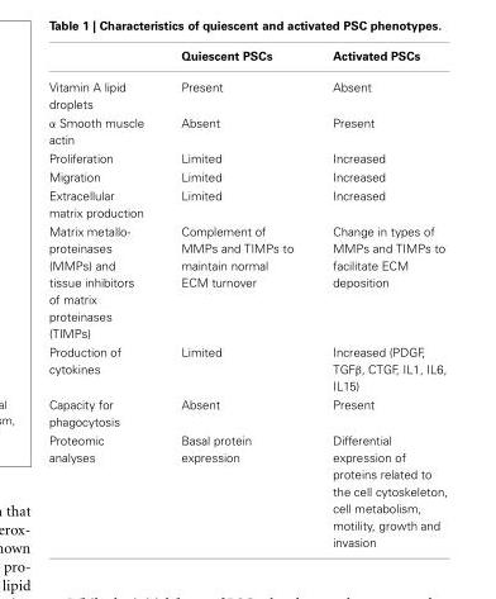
<table><thead><tr><td></td><td>Quiescent PSCs</td><td>Activated PSCs</td></tr></thead><tbody><tr><td>Vitamin A lipid droplets</td><td>Present</td><td>Absent</td></tr><tr><td>α Smooth muscle actin</td><td>Absent</td><td>Present</td></tr><tr><td>Proliferation</td><td>Limited</td><td>Increased</td></tr><tr><td>Migration</td><td>Limited</td><td>Increased</td></tr><tr><td>Extracellular matrix production</td><td>Limited</td><td>Increased</td></tr><tr><td>Matrix metallo- proteinases (MMPs) and tissue inhibitors of matrix proteinases (TIMPs)</td><td>Complement of MMPs and TIMPs to maintain normal ECM turnover</td><td>Change in types of MMPs and TIMPs to facilitate ECM deposition</td></tr><tr><td>Production of cytokines</td><td>Limited</td><td>Increased (PDGF, TGFβ, CTGF, IL1, IL6, IL15)</td></tr><tr><td>Capacity for phagocytosis</td><td>Absent</td><td>Present</td></tr><tr><td>Proteomic analyses</td><td>Basal protein expression</td><td>Differential expression of proteins related to the cell cytoskeleton, cell metabolism, motility, growth and invasion</td></tr></tbody></table>